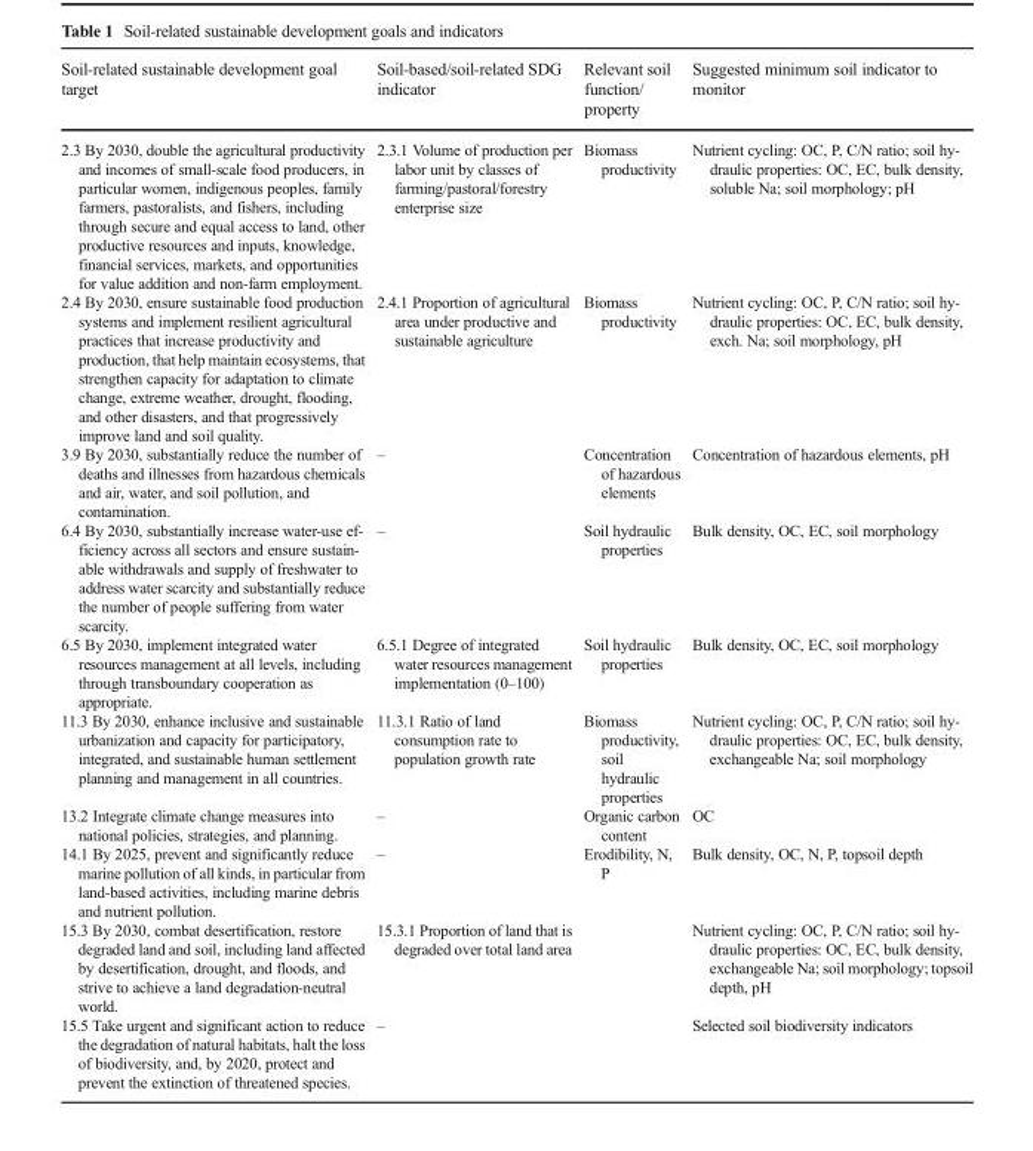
<table><thead><tr><td>Soil-related sustainable development goal target</td><td>Soil-based/soil-related SDG indicator</td><td>Relevant soil function/ property</td><td>Suggested minimum soil indicator to monitor</td></tr></thead><tbody><tr><td>2.3 By 2030, double the agricultural productivity and incomes of small-scale food producers, in particular women, indigenous peoples, family farmers, pastoralists, and fishers, including through secure and equal access to land, other productive resources and inputs, knowledge, financial services, markets, and opportunities for value addition and non-farm employment.</td><td>2.3.1 Volume of production per labor unit by classes of farming/pastoral/forestry enterprise size</td><td>Biomass productivity</td><td>Nutrient cycling: OC, P, C/N ratio; soil hy- draulic properties: OC, EC, bulk density, soluble Na; soil morphology; pH</td></tr><tr><td>2.4 By 2030, ensure sustainable food production systems and implement resilient agricultural practices that increase productivity and production, that help maintain ecosystems, that strengthen capacity for adaptation to climate change, extreme weather, drought, flooding, and other disasters, and that progressively improve land and soil quality.</td><td>2.4.1 Proportion of agricultural area under productive and sustainable agriculture</td><td>Biomass productivity</td><td>Nutrient cycling: OC, P, C/N ratio; soil hy- draulic properties: OC, EC, bulk density, exch. Na; soil morphology, pH</td></tr><tr><td>3.9 By 2030, substantially reduce the number of deaths and illnesses from hazardous chemicals and air, water, and soil pollution, and contamination.</td><td>–</td><td>Concentration of hazardous elements</td><td>Concentration of hazardous elements, pH</td></tr><tr><td>6.4 By 2030, substantially increase water-use ef- ficiency across all sectors and ensure sustain- able withdrawals and supply of freshwater to address water scarcity and substantially reduce the number of people suffering from water scarcity.</td><td>–</td><td>Soil hydraulic properties</td><td>Bulk density, OC, EC, soil morphology</td></tr><tr><td>6.5 By 2030, implement integrated water resources management at all levels, including through transboundary cooperation as appropriate.</td><td>6.5.1 Degree of integrated water resources management implementation (0–100)</td><td>Soil hydraulic properties</td><td>Bulk density, OC, EC, soil morphology</td></tr><tr><td>11.3 By 2030, enhance inclusive and sustainable urbanization and capacity for participatory, integrated, and sustainable human settlement planning and management in all countries.</td><td>11.3.1 Ratio of land consumption rate to population growth rate</td><td>Biomass productivity, soil hydraulic properties</td><td>Nutrient cycling: OC, P, C/N ratio; soil hy- draulic properties: OC, EC, bulk density, exchangeable Na; soil morphology</td></tr><tr><td>13.2 Integrate climate change measures into national policies, strategies, and planning.</td><td>–</td><td>Organic carbon content</td><td>OC</td></tr><tr><td>14.1 By 2025, prevent and significantly reduce marine pollution of all kinds, in particular from land-based activities, including marine debris and nutrient pollution.</td><td>–</td><td>Erodibility, N, P</td><td>Bulk density, OC, N, P, topsoil depth</td></tr><tr><td>15.3 By 2030, combat desertification, restore degraded land and soil, including land affected by desertification, drought, and floods, and strive to achieve a land degradation-neutral world.</td><td>15.3.1 Proportion of land that is degraded over total land area</td><td></td><td>Nutrient cycling: OC, P, C/N ratio; soil hy- draulic properties: OC, EC, bulk density, exchangeable Na; soil morphology; topsoil depth, pH</td></tr><tr><td>15.5 Take urgent and significant action to reduce the degradation of natural habitats, halt the loss of biodiversity, and, by 2020, protect and prevent the extinction of threatened species.</td><td>–</td><td></td><td>Selected soil biodiversity indicators</td></tr></tbody></table>